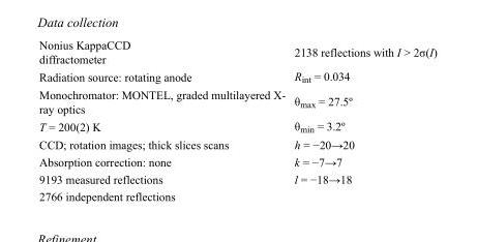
<table><tbody><tr><td>Nonius KappaCCD diffractometer</td><td>2138 reflections with I &gt; 2σ(I)</td></tr><tr><td>Radiation source: rotating anode</td><td>R<sub>int</sub> = 0.034</td></tr><tr><td>Monochromator: MONTEL, graded multilayered X- ray optics</td><td>θ<sub>max</sub> = 27.5º</td></tr><tr><td>T = 200(2) K</td><td>θ<sub>min</sub> = 3.2º</td></tr><tr><td>CCD; rotation images; thick slices scans</td><td>h = −20→20</td></tr><tr><td>Absorption correction: none</td><td>k = −7→7</td></tr><tr><td>9193 measured reflections</td><td>l = −18→18</td></tr><tr><td>2766 independent reflections</td><td></td></tr></tbody></table>